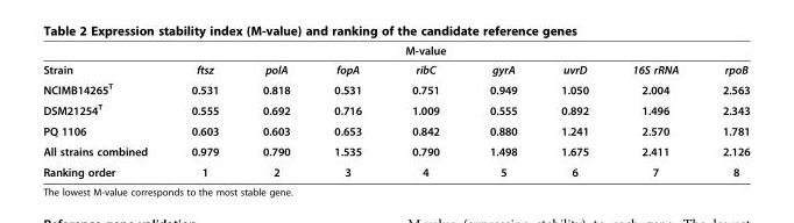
<table><thead><tr><td></td><td></td><td></td><td></td><td>M-value</td><td></td><td></td><td></td><td></td></tr></thead><tbody><tr><td>Strain</td><td>ftsz</td><td>polA</td><td>fopA</td><td>ribC</td><td>gyrA</td><td>uvrD</td><td>16S rRNA</td><td>rpoB</td></tr><tr><td>NCIMB14265<sup>T</sup></td><td>0.531</td><td>0.818</td><td>0.531</td><td>0.751</td><td>0.949</td><td>1.050</td><td>2.004</td><td>2.563</td></tr><tr><td>DSM21254<sup>T</sup></td><td>0.555</td><td>0.692</td><td>0.716</td><td>1.009</td><td>0.555</td><td>0.892</td><td>1.496</td><td>2.343</td></tr><tr><td>PQ 1106</td><td>0.603</td><td>0.603</td><td>0.653</td><td>0.842</td><td>0.880</td><td>1.241</td><td>2.570</td><td>1.781</td></tr><tr><td>All strains combined</td><td>0.979</td><td>0.790</td><td>1.535</td><td>0.790</td><td>1.498</td><td>1.675</td><td>2.411</td><td>2.126</td></tr><tr><td>Ranking order</td><td>1</td><td>2</td><td>3</td><td>4</td><td>5</td><td>6</td><td>7</td><td>8</td></tr></tbody></table>